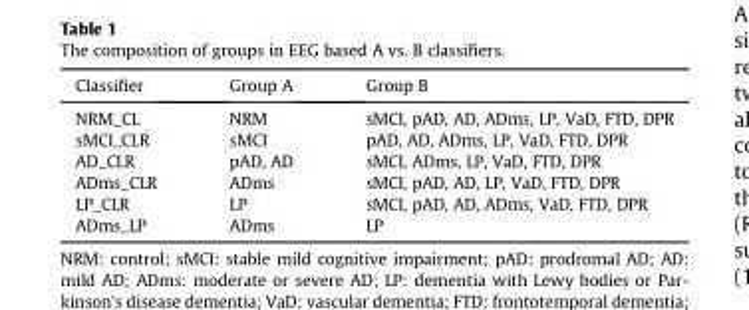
<table><thead><tr><td>Classifier</td><td>Group A</td><td>Group B</td></tr></thead><tbody><tr><td>NRM_CL</td><td>NRM</td><td>sMCI, pAD, AD, ADms, LP, VaD, FTD, DPR</td></tr><tr><td>sMCI_CLR</td><td>sMCI</td><td>pAD, AD, ADms, LP, VaD, FTD, DPR</td></tr><tr><td>AD_CLR</td><td>pAD, AD</td><td>sMCI, ADms, LP, VaD, FTD, DPR</td></tr><tr><td>ADms_CLR</td><td>ADms</td><td>sMCI, pAD, AD, LP, VaD, FTD, DPR</td></tr><tr><td>LP_CLR</td><td>LP</td><td>sMCI, pAD, AD, ADms, VaD, FTD, DPR</td></tr><tr><td>ADms_LP</td><td>ADms</td><td>LP</td></tr></tbody></table>